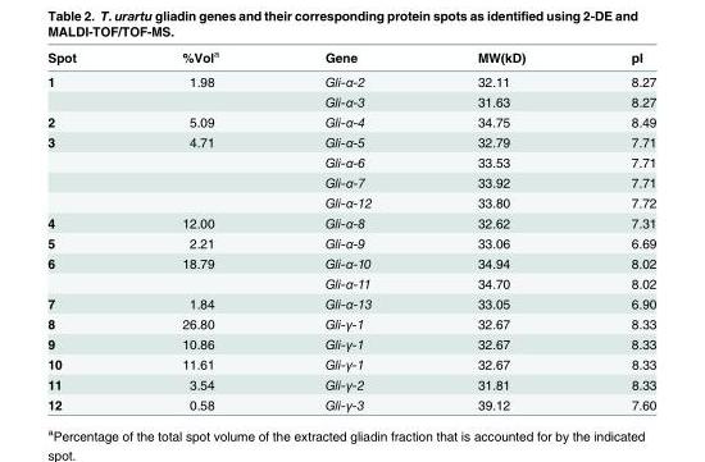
<table><thead><tr><td>Spot</td><td>%Vol<sup>a</sup></td><td>Gene</td><td>MW(kD)</td><td>pI</td></tr></thead><tbody><tr><td rowspan="2">1</td><td>1.98</td><td>Gli-α-2</td><td>32.11</td><td>8.27</td></tr><tr><td></td><td>Gli-α-3</td><td>31.63</td><td>8.27</td></tr><tr><td>2</td><td>5.09</td><td>Gli-α-4</td><td>34.75</td><td>8.49</td></tr><tr><td rowspan="4">3</td><td>4.71</td><td>Gli-α-5</td><td>32.79</td><td>7.71</td></tr><tr><td></td><td>Gli-α-6</td><td>33.53</td><td>7.71</td></tr><tr><td></td><td>Gli-α-7</td><td>33.92</td><td>7.71</td></tr><tr><td></td><td>Gli-α-12</td><td>33.80</td><td>7.72</td></tr><tr><td>4</td><td>12.00</td><td>Gli-α-8</td><td>32.62</td><td>7.31</td></tr><tr><td>5</td><td>2.21</td><td>Gli-α-9</td><td>33.06</td><td>6.69</td></tr><tr><td rowspan="2">6</td><td>18.79</td><td>Gli-α-10</td><td>34.94</td><td>8.02</td></tr><tr><td></td><td>Gli-α-11</td><td>34.70</td><td>8.02</td></tr><tr><td>7</td><td>1.84</td><td>Gli-α-13</td><td>33.05</td><td>6.90</td></tr><tr><td>8</td><td>26.80</td><td>Gli-γ-1</td><td>32.67</td><td>8.33</td></tr><tr><td>9</td><td>10.86</td><td>Gli-γ-1</td><td>32.67</td><td>8.33</td></tr><tr><td>10</td><td>11.61</td><td>Gli-γ-1</td><td>32.67</td><td>8.33</td></tr><tr><td>11</td><td>3.54</td><td>Gli-γ-2</td><td>31.81</td><td>8.33</td></tr><tr><td>12</td><td>0.58</td><td>Gli-γ-3</td><td>39.12</td><td>7.60</td></tr></tbody></table>